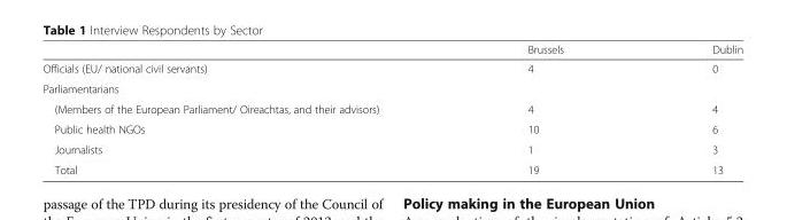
<table><thead><tr><td></td><td>Brussels</td><td>Dublin</td></tr></thead><tbody><tr><td>Officials (EU/ national civil servants)</td><td>4</td><td>0</td></tr><tr><td colspan="3">Parliamentarians</td></tr><tr><td>(Members of the European Parliament/ Oireachtas, and their advisors)</td><td>4</td><td>4</td></tr><tr><td>Public health NGOs</td><td>10</td><td>6</td></tr><tr><td>Journalists</td><td>1</td><td>3</td></tr><tr><td>Total</td><td>19</td><td>13</td></tr></tbody></table>